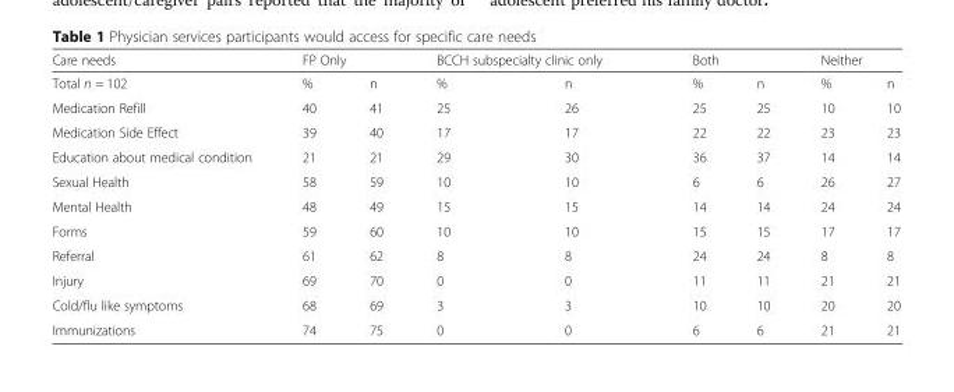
<table><thead><tr><td rowspan="2">Care needs Total n = 102</td><td colspan="2">FP Only</td><td colspan="2">BCCH subspecialty clinic only</td><td colspan="2">Both</td><td colspan="2">Neither</td></tr><tr><td>%</td><td>n</td><td>%</td><td>n</td><td>%</td><td>n</td><td>%</td><td>n</td></tr></thead><tbody><tr><td>Medication Refill</td><td>40</td><td>41</td><td>25</td><td>26</td><td>25</td><td>25</td><td>10</td><td>10</td></tr><tr><td>Medication Side Effect</td><td>39</td><td>40</td><td>17</td><td>17</td><td>22</td><td>22</td><td>23</td><td>23</td></tr><tr><td>Education about medical condition</td><td>21</td><td>21</td><td>29</td><td>30</td><td>36</td><td>37</td><td>14</td><td>14</td></tr><tr><td>Sexual Health</td><td>58</td><td>59</td><td>10</td><td>10</td><td>6</td><td>6</td><td>26</td><td>27</td></tr><tr><td>Mental Health</td><td>48</td><td>49</td><td>15</td><td>15</td><td>14</td><td>14</td><td>24</td><td>24</td></tr><tr><td>Forms</td><td>59</td><td>60</td><td>10</td><td>10</td><td>15</td><td>15</td><td>17</td><td>17</td></tr><tr><td>Referral</td><td>61</td><td>62</td><td>8</td><td>8</td><td>24</td><td>24</td><td>8</td><td>8</td></tr><tr><td>Injury</td><td>69</td><td>70</td><td>0</td><td>0</td><td>11</td><td>11</td><td>21</td><td>21</td></tr><tr><td>Cold/flu like symptoms</td><td>68</td><td>69</td><td>3</td><td>3</td><td>10</td><td>10</td><td>20</td><td>20</td></tr><tr><td>Immunizations</td><td>74</td><td>75</td><td>0</td><td>0</td><td>6</td><td>6</td><td>21</td><td>21</td></tr></tbody></table>